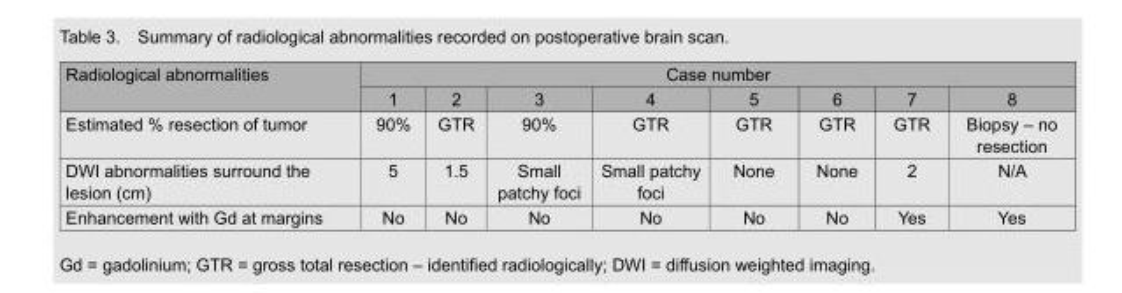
<table><thead><tr><td rowspan="2">Radiological abnormalities</td><td colspan="8">Case number</td></tr><tr><td>1</td><td>2</td><td>3</td><td>4</td><td>5</td><td>6</td><td>7</td><td>8</td></tr></thead><tbody><tr><td>Estimated % resection of tumor</td><td>90%</td><td>GTR</td><td>90%</td><td>GTR</td><td>GTR</td><td>GTR</td><td>GTR</td><td>Biopsy – no resection</td></tr><tr><td>DWI abnormalities surround the lesion (cm)</td><td>5</td><td>1.5</td><td>Small patchy foci</td><td>Small patchy foci</td><td>None</td><td>None</td><td>2</td><td>N/A</td></tr><tr><td>Enhancement with Gd at margins</td><td>No</td><td>No</td><td>No</td><td>No</td><td>No</td><td>No</td><td>Yes</td><td>Yes</td></tr></tbody></table>